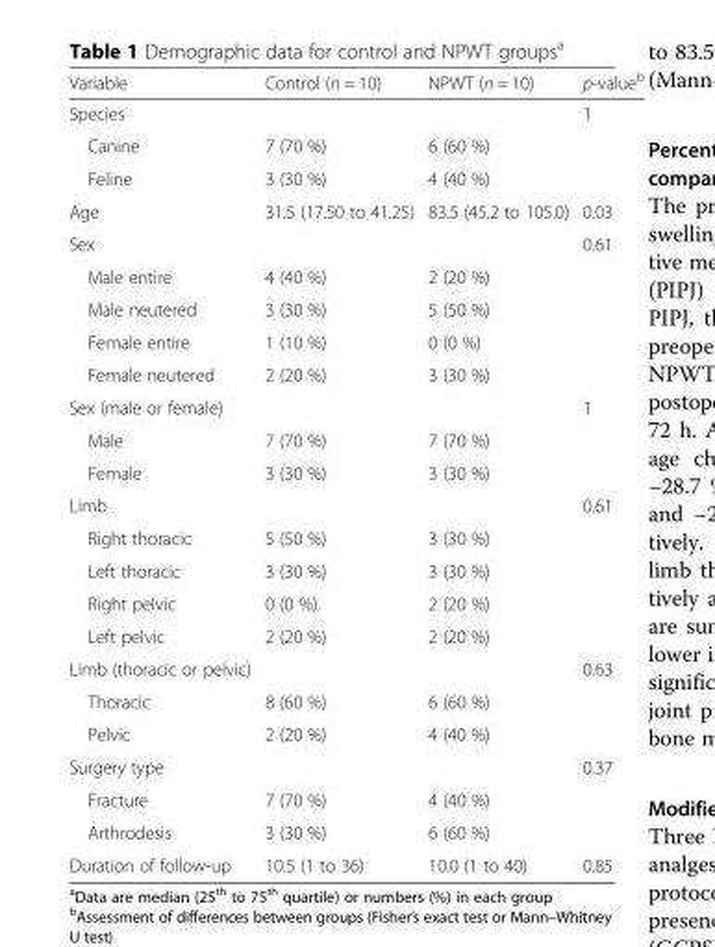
<table><thead><tr><td>Variable</td><td>Control (n = 10)</td><td>NPWT (n = 10)</td><td>p-value<sup>b</sup></td></tr></thead><tbody><tr><td>Species</td><td></td><td></td><td>1</td></tr><tr><td>Canine</td><td>7 (70 %)</td><td>6 (60 %)</td><td></td></tr><tr><td>Feline</td><td>3 (30 %)</td><td>4 (40 %)</td><td></td></tr><tr><td>Age</td><td>31.5 (17.50 to 41.25)</td><td>83.5 (45.2 to 105.0)</td><td>0.03</td></tr><tr><td>Sex</td><td></td><td></td><td>0.61</td></tr><tr><td>Male entire</td><td>4 (40 %)</td><td>2 (20 %)</td><td></td></tr><tr><td>Male neutered</td><td>3 (30 %)</td><td>5 (50 %)</td><td></td></tr><tr><td>Female entire</td><td>1 (10 %)</td><td>0 (0 %)</td><td></td></tr><tr><td>Female neutered</td><td>2 (20 %)</td><td>3 (30 %)</td><td></td></tr><tr><td>Sex (male or female)</td><td></td><td></td><td>1</td></tr><tr><td>Male</td><td>7 (70 %)</td><td>7 (70 %)</td><td></td></tr><tr><td>Female</td><td>3 (30 %)</td><td>3 (30 %)</td><td></td></tr><tr><td>Limb</td><td></td><td></td><td>0.61</td></tr><tr><td>Right thoracic</td><td>5 (50 %)</td><td>3 (30 %)</td><td></td></tr><tr><td>Left thoracic</td><td>3 (30 %)</td><td>3 (30 %)</td><td></td></tr><tr><td>Right pelvic</td><td>0 (0 %)</td><td>2 (20 %)</td><td></td></tr><tr><td>Left pelvic</td><td>2 (20 %)</td><td>2 (20 %)</td><td></td></tr><tr><td>Limb (thoracic or pelvic)</td><td></td><td></td><td>0.63</td></tr><tr><td>Thoracic</td><td>8 (60 %)</td><td>6 (60 %)</td><td></td></tr><tr><td>Pelvic</td><td>2 (20 %)</td><td>4 (40 %)</td><td></td></tr><tr><td>Surgery type</td><td></td><td></td><td>0.37</td></tr><tr><td>Fracture</td><td>7 (70 %)</td><td>4 (40 %)</td><td></td></tr><tr><td>Arthrodesis</td><td>3 (30 %)</td><td>6 (60 %)</td><td></td></tr><tr><td>Duration of follow-up</td><td>10.5 (1 to 36)</td><td>10.0 (1 to 40)</td><td>0.85</td></tr></tbody></table>